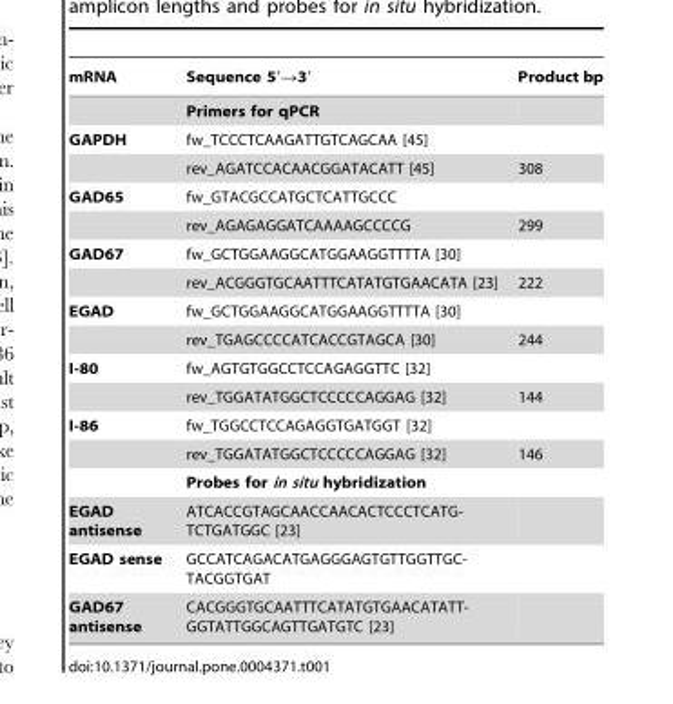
<table><thead><tr><td>mRNA</td><td>Sequence 5′→3′</td><td>Product bp</td></tr></thead><tbody><tr><td></td><td>Primers for qPCR</td><td></td></tr><tr><td rowspan="2">GAPDH</td><td>fw_TCCCTCAAGATTGTCAGCAA [45]</td><td></td></tr><tr><td>rev_AGATCCACAACGGATACATT [45]</td><td>308</td></tr><tr><td rowspan="2">GAD65</td><td>fw_GTACGCCATGCTCATTGCCC</td><td></td></tr><tr><td>rev_AGAGAGGATCAAAAGCCCCG</td><td>299</td></tr><tr><td rowspan="2">GAD67</td><td>fw_GCTGGAAGGCATGGAAGGTTTTA [30]</td><td></td></tr><tr><td>rev_ACGGGTGCAATTTCATATGTGAACATA [23]</td><td>222</td></tr><tr><td rowspan="2">EGAD</td><td>fw_GCTGGAAGGCATGGAAGGTTTTA [30]</td><td></td></tr><tr><td>rev_TGAGCCCCATCACCGTAGCA [30]</td><td>244</td></tr><tr><td rowspan="2">I-80</td><td>fw_AGTGTGGCCTCCAGAGGTTC [32]</td><td></td></tr><tr><td>rev_TGGATATGGCTCCCCCAGGAG [32]</td><td>144</td></tr><tr><td rowspan="3">I-86</td><td>fw_TGGCCTCCAGAGGTGATGGT [32]</td><td></td></tr><tr><td>rev_TGGATATGGCTCCCCCAGGAG [32]</td><td>146</td></tr><tr><td>Probes for in situ hybridization</td><td></td></tr><tr><td>EGAD antisense</td><td>ATCACCGTAGCAACCAACACTCCCTCATG- TCTGATGGC [23]</td><td></td></tr><tr><td>EGAD sense</td><td>GCCATCAGACATGAGGGAGTGTTGGTTGC- TACGGTGAT</td><td></td></tr><tr><td>GAD67 antisense</td><td>CACGGGTGCAATTTCATATGTGAACATATT- GGTATTGGCAGTTGATGTC [23]</td><td></td></tr></tbody></table>